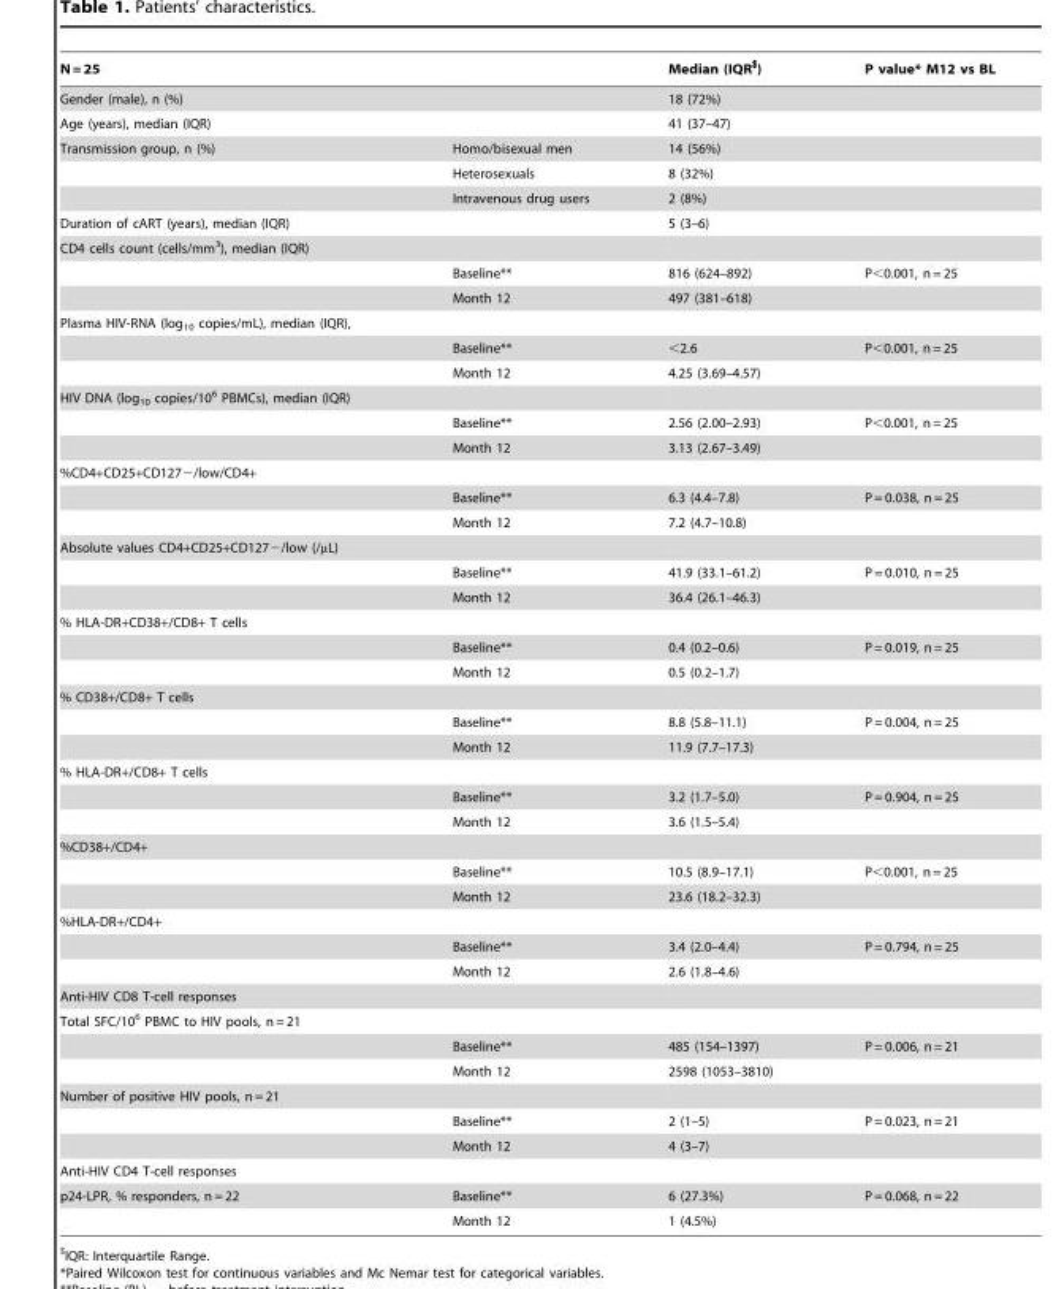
<table><thead><tr><td>N = 25</td><td></td><td>Median (IQR$)</td><td>P value* M12 vs BL</td></tr></thead><tbody><tr><td>Gender (male), n (%)</td><td></td><td>18 (72%)</td><td></td></tr><tr><td>Age (years), median (IQR)</td><td></td><td>41 (37–47)</td><td></td></tr><tr><td rowspan="3">Transmission group, n (%)</td><td>Homo/bisexual men</td><td>14 (56%)</td><td></td></tr><tr><td>Heterosexuals</td><td>8 (32%)</td><td></td></tr><tr><td>Intravenous drug users</td><td>2 (8%)</td><td></td></tr><tr><td>Duration of cART (years), median (IQR)</td><td></td><td>5 (3–6)</td><td></td></tr><tr><td colspan="4">CD4 cells count (cells/mm<sup>3</sup>), median (IQR)</td></tr><tr><td></td><td>Baseline**</td><td>816 (624–892)</td><td>P&lt;0.001, n = 25</td></tr><tr><td></td><td>Month 12</td><td>497 (381–618)</td><td></td></tr><tr><td colspan="4">Plasma HIV-RNA (log<sub>10</sub> copies/mL), median (IQR),</td></tr><tr><td></td><td>Baseline**</td><td>&lt;2.6</td><td>P&lt;0.001, n = 25</td></tr><tr><td></td><td>Month 12</td><td>4.25 (3.69–4.57)</td><td></td></tr><tr><td colspan="4">HIV DNA (log<sub>10</sub> copies/10<sup>6</sup> PBMCs), median (IQR)</td></tr><tr><td></td><td>Baseline**</td><td>2.56 (2.00–2.93)</td><td>P&lt;0.001, n = 25</td></tr><tr><td></td><td>Month 12</td><td>3.13 (2.67–3.49)</td><td></td></tr><tr><td colspan="4">%CD4+CD25+CD127−/low/CD4+</td></tr><tr><td></td><td>Baseline**</td><td>6.3 (4.4–7.8)</td><td>P = 0.038, n = 25</td></tr><tr><td></td><td>Month 12</td><td>7.2 (4.7–10.8)</td><td></td></tr><tr><td colspan="4">Absolute values CD4+CD25+CD127−/low (/µL)</td></tr><tr><td></td><td>Baseline**</td><td>41.9 (33.1–61.2)</td><td>P = 0.010, n = 25</td></tr><tr><td></td><td>Month 12</td><td>36.4 (26.1–46.3)</td><td></td></tr><tr><td colspan="4">% HLA-DR+CD38+/CD8+ T cells</td></tr><tr><td></td><td>Baseline**</td><td>0.4 (0.2–0.6)</td><td>P = 0.019, n = 25</td></tr><tr><td></td><td>Month 12</td><td>0.5 (0.2–1.7)</td><td></td></tr><tr><td colspan="4">% CD38+/CD8+ T cells</td></tr><tr><td></td><td>Baseline**</td><td>8.8 (5.8–11.1)</td><td>P = 0.004, n = 25</td></tr><tr><td></td><td>Month 12</td><td>11.9 (7.7–17.3)</td><td></td></tr><tr><td colspan="4">% HLA-DR+/CD8+ T cells</td></tr><tr><td></td><td>Baseline**</td><td>3.2 (1.7–5.0)</td><td>P = 0.904, n = 25</td></tr><tr><td></td><td>Month 12</td><td>3.6 (1.5–5.4)</td><td></td></tr><tr><td colspan="4">%CD38+/CD4+</td></tr><tr><td></td><td>Baseline**</td><td>10.5 (8.9–17.1)</td><td>P&lt;0.001, n = 25</td></tr><tr><td></td><td>Month 12</td><td>23.6 (18.2–32.3)</td><td></td></tr><tr><td colspan="4">%HLA-DR+/CD4+</td></tr><tr><td></td><td>Baseline**</td><td>3.4 (2.0–4.4)</td><td>P = 0.794, n = 25</td></tr><tr><td></td><td>Month 12</td><td>2.6 (1.8–4.6)</td><td></td></tr><tr><td colspan="4">Anti-HIV CD8 T-cell responses</td></tr><tr><td colspan="4">Total SFC/10<sup>6</sup> PBMC to HIV pools, n = 21</td></tr><tr><td></td><td>Baseline**</td><td>485 (154–1397)</td><td>P = 0.006, n = 21</td></tr><tr><td></td><td>Month 12</td><td>2598 (1053–3810)</td><td></td></tr><tr><td colspan="4">Number of positive HIV pools, n = 21</td></tr><tr><td></td><td>Baseline**</td><td>2 (1–5)</td><td>P = 0.023, n = 21</td></tr><tr><td></td><td>Month 12</td><td>4 (3–7)</td><td></td></tr><tr><td colspan="4">Anti-HIV CD4 T-cell responses</td></tr><tr><td rowspan="2">p24-LPR, % responders, n = 22</td><td>Baseline**</td><td>6 (27.3%)</td><td>P = 0.068, n = 22</td></tr><tr><td>Month 12</td><td>1 (4.5%)</td><td></td></tr></tbody></table>